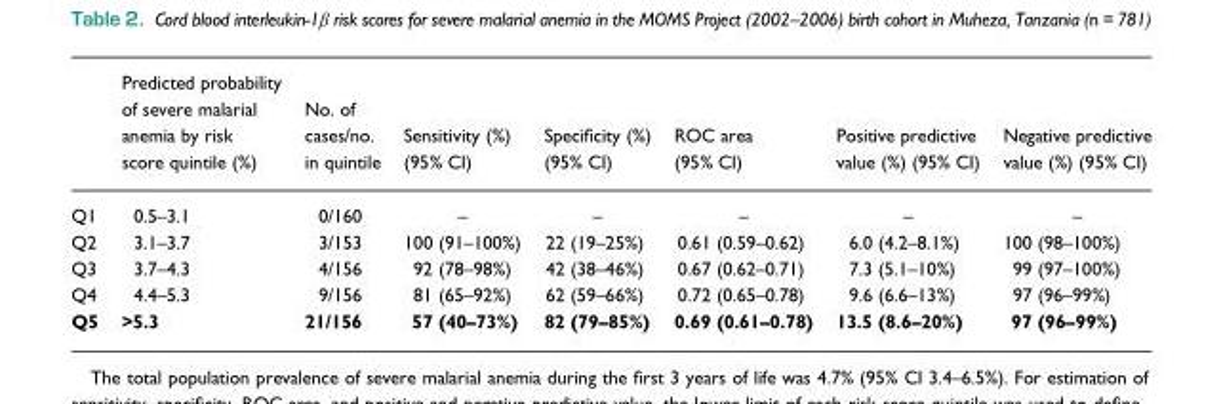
<table><thead><tr><td></td><td>Predicted probability of severe malarial anemia by risk score quintile (%)</td><td>No. of cases/no. in quintile</td><td>Sensitivity (%) (95% CI)</td><td>Specificity (%) (95% CI)</td><td>ROC area (95% CI)</td><td>Positive predictive value (%) (95% CI)</td><td>Negative predictive value (%) (95% CI)</td></tr></thead><tbody><tr><td>Q1</td><td>0.5–3.1</td><td>0/160</td><td>–</td><td>–</td><td>–</td><td>–</td><td>–</td></tr><tr><td>Q2</td><td>3.1–3.7</td><td>3/153</td><td>100 (91–100%)</td><td>22 (19–25%)</td><td>0.61 (0.59–0.62)</td><td>6.0 (4.2–8.1%)</td><td>100 (98–100%)</td></tr><tr><td>Q3</td><td>3.7–4.3</td><td>4/156</td><td>92 (78–98%)</td><td>42 (38–46%)</td><td>0.67 (0.62–0.71)</td><td>7.3 (5.1–10%)</td><td>99 (97–100%)</td></tr><tr><td>Q4</td><td>4.4–5.3</td><td>9/156</td><td>81 (65–92%)</td><td>62 (59–66%)</td><td>0.72 (0.65–0.78)</td><td>9.6 (6.6–13%)</td><td>97 (96–99%)</td></tr><tr><td>Q5</td><td>&gt;5.3</td><td>21/156</td><td>57 (40–73%)</td><td>82 (79–85%)</td><td>0.69 (0.61–0.78)</td><td>13.5 (8.6–20%)</td><td>97 (96–99%)</td></tr></tbody></table>